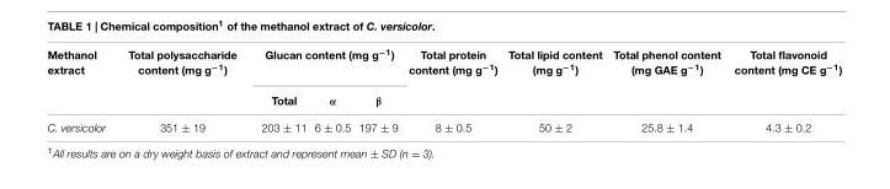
<table><thead><tr><td rowspan="2">Methanol extract</td><td rowspan="2">Total polysaccharide content (mg g<sup>−1</sup>)</td><td colspan="3">Glucan content (mg g<sup>−1</sup>)</td><td rowspan="2">Total protein content (mg g<sup>−1</sup>)</td><td rowspan="2">Total lipid content (mg g<sup>−1</sup>)</td><td rowspan="2">Total phenol content (mg GAE g<sup>−1</sup>)</td><td rowspan="2">Total flavonoid content (mg CE g<sup>−1</sup>)</td></tr><tr><td>Total</td><td>α</td><td>β</td></tr></thead><tbody><tr><td>C. versicolor</td><td>351 ± 19</td><td>203 ± 11</td><td>6 ± 0.5</td><td>197 ± 9</td><td>8 ± 0.5</td><td>50 ± 2</td><td>25.8 ± 1.4</td><td>4.3 ± 0.2</td></tr></tbody></table>